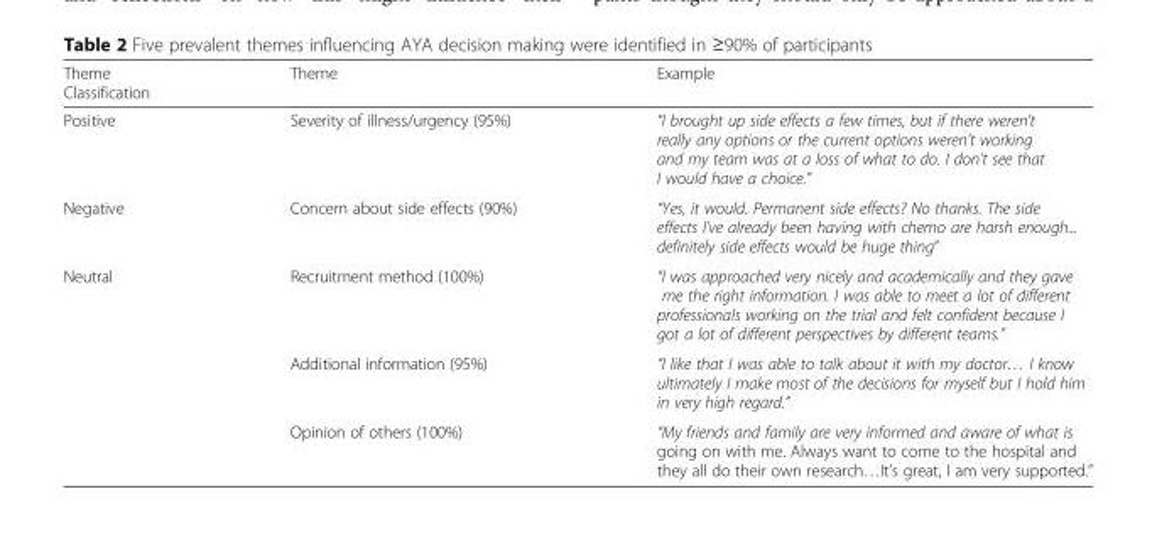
<table><thead><tr><td>Theme Classification</td><td>Theme</td><td>Example</td></tr></thead><tbody><tr><td>Positive</td><td>Severity of illness/urgency (95%)</td><td>“I brought up side effects a few times, but if there weren’t really any options or the current options weren’t working and my team was at a loss of what to do. I don’t see that I would have a choice.”</td></tr><tr><td>Negative</td><td>Concern about side effects (90%)</td><td>“Yes, it would. Permanent side effects? No thanks. The side effects I’ve already been having with chemo are harsh enough... definitely side effects would be huge thing”</td></tr><tr><td rowspan="3">Neutral</td><td>Recruitment method (100%)</td><td>“I was approached very nicely and academically and they gave me the right information. I was able to meet a lot of different professionals working on the trial and felt confident because I got a lot of different perspectives by different teams.”</td></tr><tr><td>Additional information (95%)</td><td>“I like that I was able to talk about it with my doctor… I know ultimately I make most of the decisions for myself but I hold him in very high regard.”</td></tr><tr><td>Opinion of others (100%)</td><td>“My friends and family are very informed and aware of what is going on with me. Always want to come to the hospital and they all do their own research…It’s great, I am very supported.”</td></tr></tbody></table>